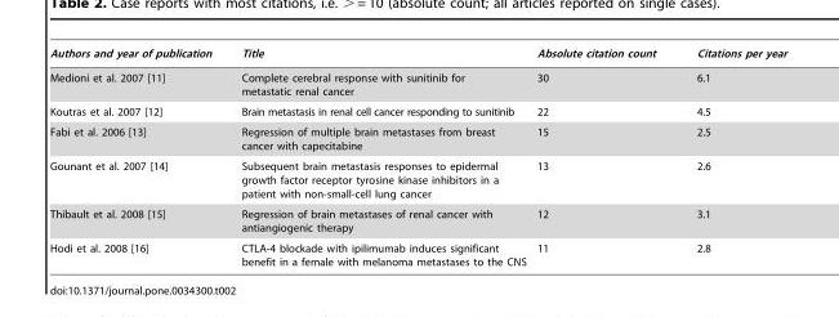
<table><thead><tr><td>Authors and year of publication</td><td>Title</td><td>Absolute citation count</td><td>Citations per year</td></tr></thead><tbody><tr><td>Medioni et al. 2007 [11]</td><td>Complete cerebral response with sunitinib for metastatic renal cancer</td><td>30</td><td>6.1</td></tr><tr><td>Koutras et al. 2007 [12]</td><td>Brain metastasis in renal cell cancer responding to sunitinib</td><td>22</td><td>4.5</td></tr><tr><td>Fabi et al. 2006 [13]</td><td>Regression of multiple brain metastases from breast cancer with capecitabine</td><td>15</td><td>2.5</td></tr><tr><td>Gounant et al. 2007 [14]</td><td>Subsequent brain metastasis responses to epidermal growth factor receptor tyrosine kinase inhibitors in a patient with non-small-cell lung cancer</td><td>13</td><td>2.6</td></tr><tr><td>Thibault et al. 2008 [15]</td><td>Regression of brain metastases of renal cancer with antiangiogenic therapy</td><td>12</td><td>3.1</td></tr><tr><td>Hodi et al. 2008 [16]</td><td>CTLA-4 blockade with ipilimumab induces significant benefit in a female with melanoma metastases to the CNS</td><td>11</td><td>2.8</td></tr></tbody></table>